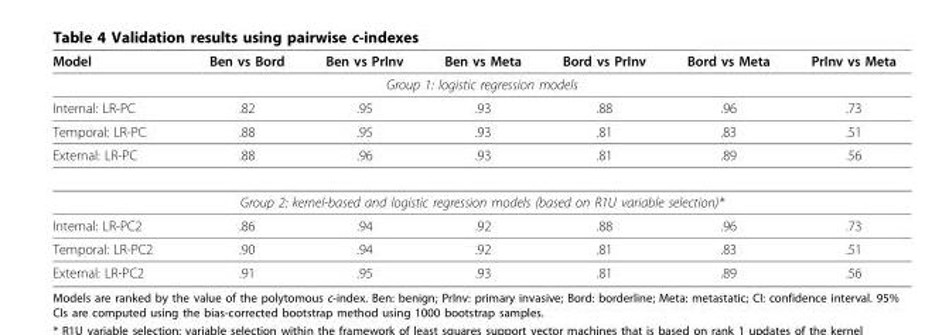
<table><thead><tr><td>Model</td><td>Ben vs Bord</td><td>Ben vs PrInv</td><td>Ben vs Meta</td><td>Bord vs PrInv</td><td>Bord vs Meta</td><td>PrInv vs Meta</td></tr></thead><tbody><tr><td colspan="7">Group 1: logistic regression models</td></tr><tr><td>Internal: LR-PC</td><td>.82</td><td>.95</td><td>.93</td><td>.88</td><td>.96</td><td>.73</td></tr><tr><td>Temporal: LR-PC</td><td>.88</td><td>.95</td><td>.93</td><td>.81</td><td>.83</td><td>.51</td></tr><tr><td>External: LR-PC</td><td>.88</td><td>.96</td><td>.93</td><td>.81</td><td>.89</td><td>.56</td></tr><tr><td colspan="7">Group 2: kernel-based and logistic regression models (based on R1U variable selection)*</td></tr><tr><td>Internal: LR-PC2</td><td>.86</td><td>.94</td><td>.92</td><td>.88</td><td>.96</td><td>.73</td></tr><tr><td>Temporal: LR-PC2</td><td>.90</td><td>.94</td><td>.92</td><td>.81</td><td>.83</td><td>.51</td></tr><tr><td>External: LR-PC2</td><td>.91</td><td>.95</td><td>.93</td><td>.81</td><td>.89</td><td>.56</td></tr></tbody></table>